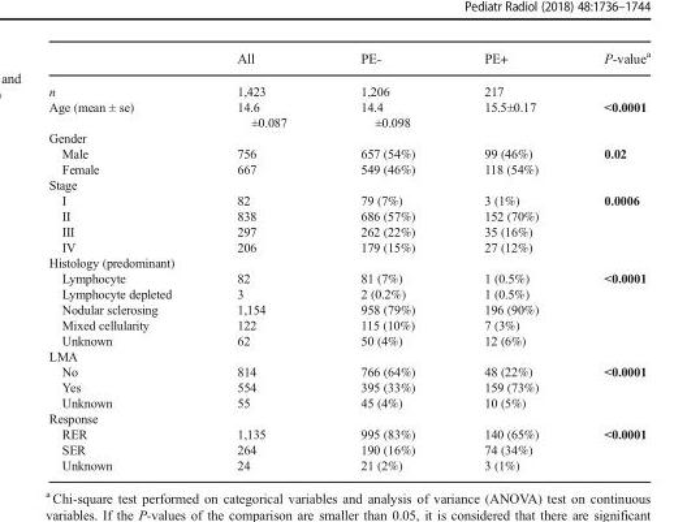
<table><thead><tr><td></td><td>All</td><td>PE-</td><td>PE+</td><td>P-value<sup>a</sup></td></tr></thead><tbody><tr><td>n</td><td>1,423</td><td>1,206</td><td>217</td><td></td></tr><tr><td>Age (mean ± se)</td><td>14.6 ±0.087</td><td>14.4 ±0.098</td><td>15.5±0.17</td><td>&lt;0.0001</td></tr><tr><td colspan="5">Gender</td></tr><tr><td>Male</td><td>756</td><td>657 (54%)</td><td>99 (46%)</td><td>0.02</td></tr><tr><td>Female</td><td>667</td><td>549 (46%)</td><td>118 (54%)</td><td></td></tr><tr><td colspan="5">Stage</td></tr><tr><td>I</td><td>82</td><td>79 (7%)</td><td>3 (1%)</td><td rowspan="4">0.0006</td></tr><tr><td>II</td><td>838</td><td>686 (57%)</td><td>152 (70%)</td></tr><tr><td>III</td><td>297</td><td>262 (22%)</td><td>35 (16%)</td></tr><tr><td>IV</td><td>206</td><td>179 (15%)</td><td>27 (12%)</td></tr><tr><td colspan="5">Histology (predominant)</td></tr><tr><td>Lymphocyte</td><td>82</td><td>81 (7%)</td><td>1 (0.5%)</td><td rowspan="5">&lt;0.0001</td></tr><tr><td>Lymphocyte depleted</td><td>3</td><td>2 (0.2%)</td><td>1 (0.5%)</td></tr><tr><td>Nodular sclerosing</td><td>1,154</td><td>958 (79%)</td><td>196 (90%)</td></tr><tr><td>Mixed cellularity</td><td>122</td><td>115 (10%)</td><td>7 (3%)</td></tr><tr><td>Unknown</td><td>62</td><td>50 (4%)</td><td>12 (6%)</td></tr><tr><td colspan="5">LMA</td></tr><tr><td>No</td><td>814</td><td>766 (64%)</td><td>48 (22%)</td><td rowspan="3">&lt;0.0001</td></tr><tr><td>Yes</td><td>554</td><td>395 (33%)</td><td>159 (73%)</td></tr><tr><td>Unknown</td><td>55</td><td>45 (4%)</td><td>10 (5%)</td></tr><tr><td colspan="5">Response</td></tr><tr><td>RER</td><td>1,135</td><td>995 (83%)</td><td>140 (65%)</td><td rowspan="3">&lt;0.0001</td></tr><tr><td>SER</td><td>264</td><td>190 (16%)</td><td>74 (34%)</td></tr><tr><td>Unknown</td><td>24</td><td>21 (2%)</td><td>3 (1%)</td></tr></tbody></table>